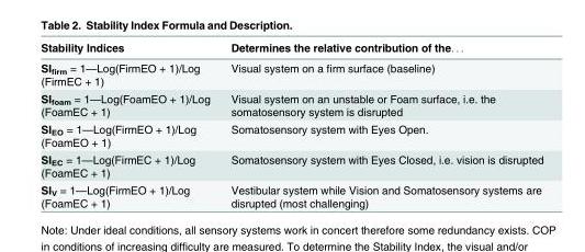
<table><thead><tr><td>Stability Indices</td><td>Determines the relative contribution of the. . .</td></tr></thead><tbody><tr><td>SI<sub>firm</sub> = 1—Log(FirmEO + 1)/Log (FirmEC + 1)</td><td>Visual system on a firm surface (baseline)</td></tr><tr><td>SI<sub>foam</sub> = 1—Log(FoamEO + 1)/Log (FoamEC + 1)</td><td>Visual system on an unstable or Foam surface, i.e. the somatosensory system is disrupted</td></tr><tr><td>SI<sub>EO</sub> = 1—Log(FirmEO + 1)/Log (FoamEO + 1)</td><td>Somatosensory system with Eyes Open.</td></tr><tr><td>SI<sub>EC</sub> = 1—Log(FirmEC + 1)/Log (FoamEC + 1)</td><td>Somatosensory system with Eyes Closed, i.e. vision is disrupted</td></tr><tr><td>SI<sub>V</sub> = 1—Log(FirmEO + 1)/Log (FoamEC + 1)</td><td>Vestibular system while Vision and Somatosensory systems are disrupted (most challenging)</td></tr></tbody></table>